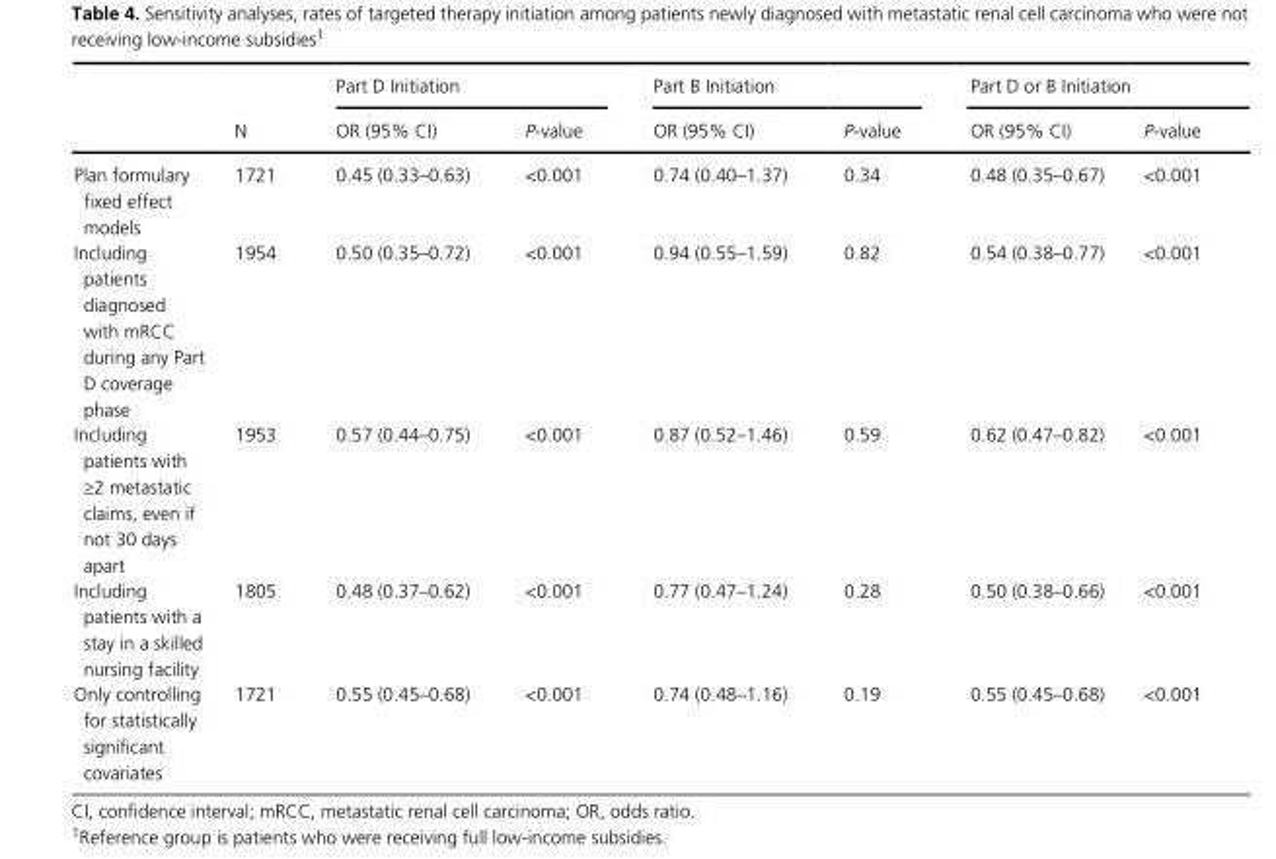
<table><thead><tr><td rowspan="2"></td><td rowspan="2">N</td><td colspan="2">Part D Initiation</td><td colspan="2">Part B Initiation</td><td colspan="2">Part D or B Initiation</td></tr><tr><td>OR (95% CI)</td><td>P-value</td><td>OR (95% CI)</td><td>P-value</td><td>OR (95% CI)</td><td>P-value</td></tr></thead><tbody><tr><td>Plan formulary fixed effect models</td><td>1721</td><td>0.45 (0.33–0.63)</td><td>&lt;0.001</td><td>0.74 (0.40–1.37)</td><td>0.34</td><td>0.48 (0.35–0.67)</td><td>&lt;0.001</td></tr><tr><td>Including patients diagnosed with mRCC during any Part D coverage phase</td><td>1954</td><td>0.50 (0.35–0.72)</td><td>&lt;0.001</td><td>0.94 (0.55–1.59)</td><td>0.82</td><td>0.54 (0.38–0.77)</td><td>&lt;0.001</td></tr><tr><td>Including patients with ≥2 metastatic claims, even if not 30 days apart</td><td>1953</td><td>0.57 (0.44–0.75)</td><td>&lt;0.001</td><td>0.87 (0.52–1.46)</td><td>0.59</td><td>0.62 (0.47–0.82)</td><td>&lt;0.001</td></tr><tr><td>Including patients with a stay in a skilled nursing facility</td><td>1805</td><td>0.48 (0.37–0.62)</td><td>&lt;0.001</td><td>0.77 (0.47–1.24)</td><td>0.28</td><td>0.50 (0.38–0.66)</td><td>&lt;0.001</td></tr><tr><td>Only controlling for statistically significant covariates</td><td>1721</td><td>0.55 (0.45–0.68)</td><td>&lt;0.001</td><td>0.74 (0.48–1.16)</td><td>0.19</td><td>0.55 (0.45–0.68)</td><td>&lt;0.001</td></tr></tbody></table>